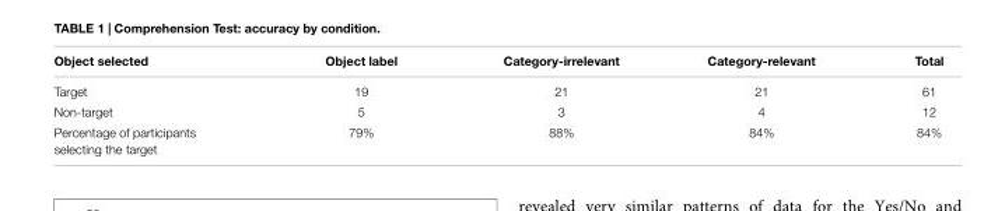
<table><thead><tr><td>Object selected</td><td>Object label</td><td>Category-irrelevant</td><td>Category-relevant</td><td>Total</td></tr></thead><tbody><tr><td>Target</td><td>19</td><td>21</td><td>21</td><td>61</td></tr><tr><td>Non-target</td><td>5</td><td>3</td><td>4</td><td>12</td></tr><tr><td>Percentage of participants selecting the target</td><td>79%</td><td>88%</td><td>84%</td><td>84%</td></tr></tbody></table>